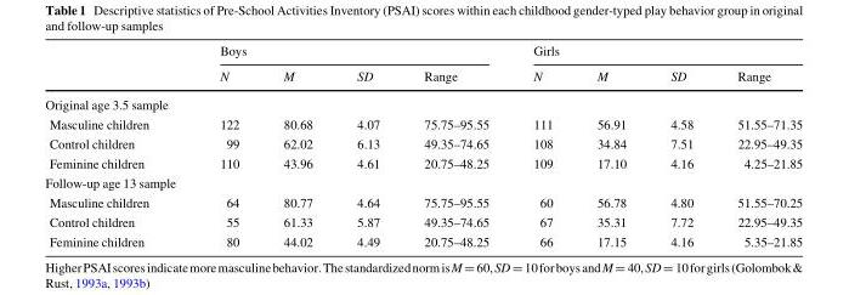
<table><thead><tr><td rowspan="2"></td><td colspan="4">Boys</td><td colspan="4">Girls</td></tr><tr><td>N</td><td>M</td><td>SD</td><td>Range</td><td>N</td><td>M</td><td>SD</td><td>Range</td></tr></thead><tbody><tr><td colspan="9">Original age 3.5 sample</td></tr><tr><td>Masculine children</td><td>122</td><td>80.68</td><td>4.07</td><td>75.75–95.55</td><td>111</td><td>56.91</td><td>4.58</td><td>51.55–71.35</td></tr><tr><td>Control children</td><td>99</td><td>62.02</td><td>6.13</td><td>49.35–74.65</td><td>108</td><td>34.84</td><td>7.51</td><td>22.95–49.35</td></tr><tr><td>Feminine children</td><td>110</td><td>43.96</td><td>4.61</td><td>20.75–48.25</td><td>109</td><td>17.10</td><td>4.16</td><td>4.25–21.85</td></tr><tr><td colspan="9">Follow-up age 13 sample</td></tr><tr><td>Masculine children</td><td>64</td><td>80.77</td><td>4.64</td><td>75.75–95.55</td><td>60</td><td>56.78</td><td>4.80</td><td>51.55–70.25</td></tr><tr><td>Control children</td><td>55</td><td>61.33</td><td>5.87</td><td>49.35–74.65</td><td>67</td><td>35.31</td><td>7.72</td><td>22.95–49.35</td></tr><tr><td>Feminine children</td><td>80</td><td>44.02</td><td>4.49</td><td>20.75–48.25</td><td>66</td><td>17.15</td><td>4.16</td><td>5.35–21.85</td></tr></tbody></table>